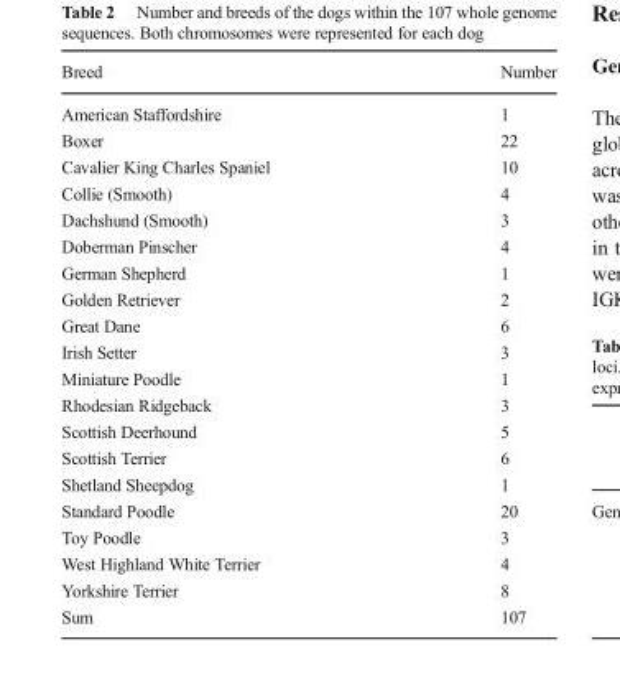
<table><thead><tr><td>Breed</td><td>Number</td></tr></thead><tbody><tr><td>American Staffordshire</td><td>1</td></tr><tr><td>Boxer</td><td>22</td></tr><tr><td>Cavalier King Charles Spaniel</td><td>10</td></tr><tr><td>Collie (Smooth)</td><td>4</td></tr><tr><td>Dachshund (Smooth)</td><td>3</td></tr><tr><td>Doberman Pinscher</td><td>4</td></tr><tr><td>German Shepherd</td><td>1</td></tr><tr><td>Golden Retriever</td><td>2</td></tr><tr><td>Great Dane</td><td>6</td></tr><tr><td>Irish Setter</td><td>3</td></tr><tr><td>Miniature Poodle</td><td>1</td></tr><tr><td>Rhodesian Ridgeback</td><td>3</td></tr><tr><td>Scottish Deerhound</td><td>5</td></tr><tr><td>Scottish Terrier</td><td>6</td></tr><tr><td>Shetland Sheepdog</td><td>1</td></tr><tr><td>Standard Poodle</td><td>20</td></tr><tr><td>Toy Poodle</td><td>3</td></tr><tr><td>West Highland White Terrier</td><td>4</td></tr><tr><td>Yorkshire Terrier</td><td>8</td></tr><tr><td>Sum</td><td>107</td></tr></tbody></table>